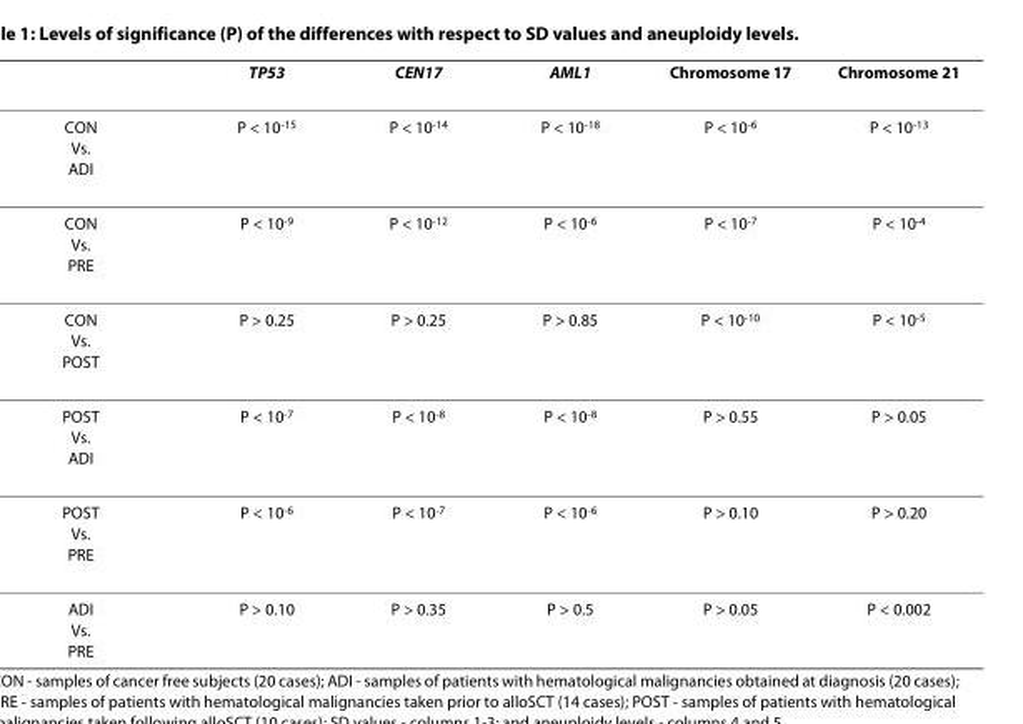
<table><thead><tr><td></td><td>TP53</td><td>CEN17</td><td>AML1</td><td>Chromosome 17</td><td>Chromosome 21</td></tr></thead><tbody><tr><td>CON Vs. ADI</td><td>P &lt; 10<sup>-15</sup></td><td>P &lt; 10<sup>-14</sup></td><td>P &lt; 10<sup>-18</sup></td><td>P &lt; 10<sup>-6</sup></td><td>P &lt; 10<sup>-13</sup></td></tr><tr><td>CON Vs. PRE</td><td>P &lt; 10<sup>-9</sup></td><td>P &lt; 10<sup>-12</sup></td><td>P &lt; 10<sup>-6</sup></td><td>P &lt; 10<sup>-7</sup></td><td>P &lt; 10<sup>-4</sup></td></tr><tr><td>CON Vs. POST</td><td>P &gt; 0.25</td><td>P &gt; 0.25</td><td>P &gt; 0.85</td><td>P &lt; 10<sup>-10</sup></td><td>P &lt; 10<sup>-5</sup></td></tr><tr><td>POST Vs. ADI</td><td>P &lt; 10<sup>-7</sup></td><td>P &lt; 10<sup>-8</sup></td><td>P &lt; 10<sup>-8</sup></td><td>P &gt; 0.55</td><td>P &gt; 0.05</td></tr><tr><td>POST Vs. PRE</td><td>P &lt; 10<sup>-6</sup></td><td>P &lt; 10<sup>-7</sup></td><td>P &lt; 10<sup>-6</sup></td><td>P &gt; 0.10</td><td>P &gt; 0.20</td></tr><tr><td>ADI Vs. PRE</td><td>P &gt; 0.10</td><td>P &gt; 0.35</td><td>P &gt; 0.5</td><td>P &gt; 0.05</td><td>P &lt; 0.002</td></tr></tbody></table>